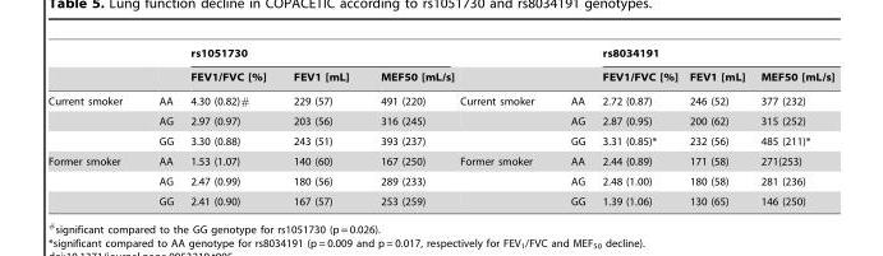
<table><thead><tr><td rowspan="2"></td><td rowspan="2"></td><td colspan="3">rs1051730</td><td rowspan="2"></td><td rowspan="2"></td><td colspan="3">rs8034191</td></tr><tr><td>FEV1/FVC [%]</td><td>FEV1 [mL]</td><td>MEF50 [mL/s]</td><td>FEV1/FVC [%]</td><td>FEV1 [mL]</td><td>MEF50 [mL/s]</td></tr></thead><tbody><tr><td rowspan="3">Current smoker</td><td>AA</td><td>4.30 (0.82)#</td><td>229 (57)</td><td>491 (220)</td><td>Current smoker</td><td>AA</td><td>2.72 (0.87)</td><td>246 (52)</td><td>377 (232)</td></tr><tr><td>AG</td><td>2.97 (0.97)</td><td>203 (56)</td><td>316 (245)</td><td></td><td>AG</td><td>2.87 (0.95)</td><td>200 (62)</td><td>315 (252)</td></tr><tr><td>GG</td><td>3.30 (0.88)</td><td>243 (51)</td><td>393 (237)</td><td></td><td>GG</td><td>3.31 (0.85)*</td><td>232 (56)</td><td>485 (211)*</td></tr><tr><td rowspan="3">Former smoker</td><td>AA</td><td>1.53 (1.07)</td><td>140 (60)</td><td>167 (250)</td><td>Former smoker</td><td>AA</td><td>2.44 (0.89)</td><td>171 (58)</td><td>271(253)</td></tr><tr><td>AG</td><td>2.47 (0.99)</td><td>180 (56)</td><td>289 (233)</td><td></td><td>AG</td><td>2.48 (1.00)</td><td>180 (58)</td><td>281 (236)</td></tr><tr><td>GG</td><td>2.41 (0.90)</td><td>167 (57)</td><td>253 (259)</td><td></td><td>GG</td><td>1.39 (1.06)</td><td>130 (65)</td><td>146 (250)</td></tr></tbody></table>